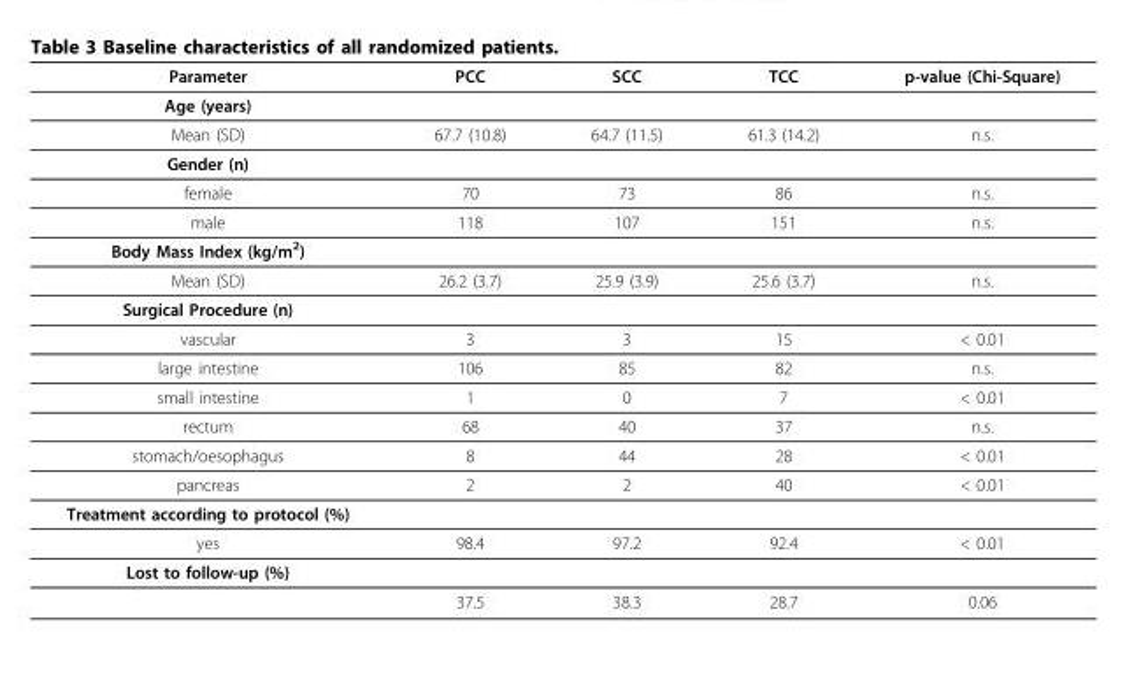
<table><thead><tr><td>Parameter</td><td>PCC</td><td>SCC</td><td>TCC</td><td>p-value (Chi-Square)</td></tr></thead><tbody><tr><td colspan="5">Age (years)</td></tr><tr><td>Mean (SD)</td><td>67.7 (10.8)</td><td>64.7 (11.5)</td><td>61.3 (14.2)</td><td>n.s.</td></tr><tr><td colspan="5">Gender (n)</td></tr><tr><td>female</td><td>70</td><td>73</td><td>86</td><td>n.s.</td></tr><tr><td>male</td><td>118</td><td>107</td><td>151</td><td>n.s.</td></tr><tr><td colspan="5">Body Mass Index (kg/m<sup>2</sup>)</td></tr><tr><td>Mean (SD)</td><td>26.2 (3.7)</td><td>25.9 (3.9)</td><td>25.6 (3.7)</td><td>n.s.</td></tr><tr><td colspan="5">Surgical Procedure (n)</td></tr><tr><td>vascular</td><td>3</td><td>3</td><td>15</td><td>&lt; 0.01</td></tr><tr><td>large intestine</td><td>106</td><td>85</td><td>82</td><td>n.s.</td></tr><tr><td>small intestine</td><td>1</td><td>0</td><td>7</td><td>&lt; 0.01</td></tr><tr><td>rectum</td><td>68</td><td>40</td><td>37</td><td>n.s.</td></tr><tr><td>stomach/oesophagus</td><td>8</td><td>44</td><td>28</td><td>&lt; 0.01</td></tr><tr><td>pancreas</td><td>2</td><td>2</td><td>40</td><td>&lt; 0.01</td></tr><tr><td colspan="5">Treatment according to protocol (%)</td></tr><tr><td>yes</td><td>98.4</td><td>97.2</td><td>92.4</td><td>&lt; 0.01</td></tr><tr><td colspan="5">Lost to follow-up (%)</td></tr><tr><td></td><td>37.5</td><td>38.3</td><td>28.7</td><td>0.06</td></tr></tbody></table>